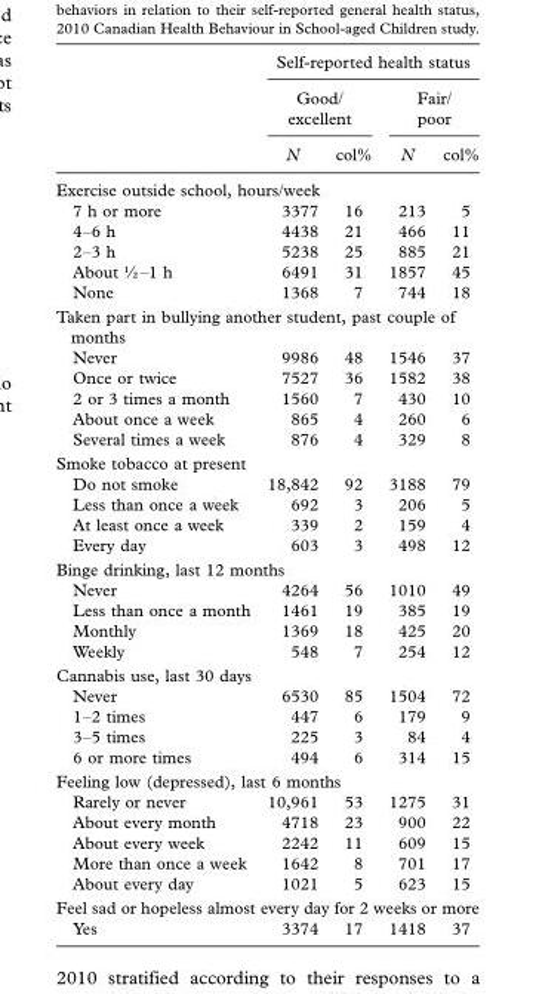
<table><thead><tr><td rowspan="3"></td><td colspan="4">Self-reported health status</td></tr><tr><td colspan="2">Good/ excellent</td><td colspan="2">Fair/ poor</td></tr><tr><td>N</td><td>col%</td><td>N</td><td>col%</td></tr></thead><tbody><tr><td colspan="5">Exercise outside school, hours/week</td></tr><tr><td>7 h or more</td><td>3377</td><td>16</td><td>213</td><td>5</td></tr><tr><td>4–6 h</td><td>4438</td><td>21</td><td>466</td><td>11</td></tr><tr><td>2–3 h</td><td>5238</td><td>25</td><td>885</td><td>21</td></tr><tr><td>About ½–1 h</td><td>6491</td><td>31</td><td>1857</td><td>45</td></tr><tr><td>None</td><td>1368</td><td>7</td><td>744</td><td>18</td></tr><tr><td colspan="5">Taken part in bullying another student, past couple of months</td></tr><tr><td>Never</td><td>9986</td><td>48</td><td>1546</td><td>37</td></tr><tr><td>Once or twice</td><td>7527</td><td>36</td><td>1582</td><td>38</td></tr><tr><td>2 or 3 times a month</td><td>1560</td><td>7</td><td>430</td><td>10</td></tr><tr><td>About once a week</td><td>865</td><td>4</td><td>260</td><td>6</td></tr><tr><td>Several times a week</td><td>876</td><td>4</td><td>329</td><td>8</td></tr><tr><td colspan="5">Smoke tobacco at present</td></tr><tr><td>Do not smoke</td><td>18,842</td><td>92</td><td>3188</td><td>79</td></tr><tr><td>Less than once a week</td><td>692</td><td>3</td><td>206</td><td>5</td></tr><tr><td>At least once a week</td><td>339</td><td>2</td><td>159</td><td>4</td></tr><tr><td>Every day</td><td>603</td><td>3</td><td>498</td><td>12</td></tr><tr><td colspan="5">Binge drinking, last 12 months</td></tr><tr><td>Never</td><td>4264</td><td>56</td><td>1010</td><td>49</td></tr><tr><td>Less than once a month</td><td>1461</td><td>19</td><td>385</td><td>19</td></tr><tr><td>Monthly</td><td>1369</td><td>18</td><td>425</td><td>20</td></tr><tr><td>Weekly</td><td>548</td><td>7</td><td>254</td><td>12</td></tr><tr><td colspan="5">Cannabis use, last 30 days</td></tr><tr><td>Never</td><td>6530</td><td>85</td><td>1504</td><td>72</td></tr><tr><td>1–2 times</td><td>447</td><td>6</td><td>179</td><td>9</td></tr><tr><td>3–5 times</td><td>225</td><td>3</td><td>84</td><td>4</td></tr><tr><td>6 or more times</td><td>494</td><td>6</td><td>314</td><td>15</td></tr><tr><td colspan="5">Feeling low (depressed), last 6 months</td></tr><tr><td>Rarely or never</td><td>10,961</td><td>53</td><td>1275</td><td>31</td></tr><tr><td>About every month</td><td>4718</td><td>23</td><td>900</td><td>22</td></tr><tr><td>About every week</td><td>2242</td><td>11</td><td>609</td><td>15</td></tr><tr><td>More than once a week</td><td>1642</td><td>8</td><td>701</td><td>17</td></tr><tr><td>About every day</td><td>1021</td><td>5</td><td>623</td><td>15</td></tr><tr><td colspan="5">Feel sad or hopeless almost every day for 2 weeks or more</td></tr><tr><td>Yes</td><td>3374</td><td>17</td><td>1418</td><td>37</td></tr></tbody></table>